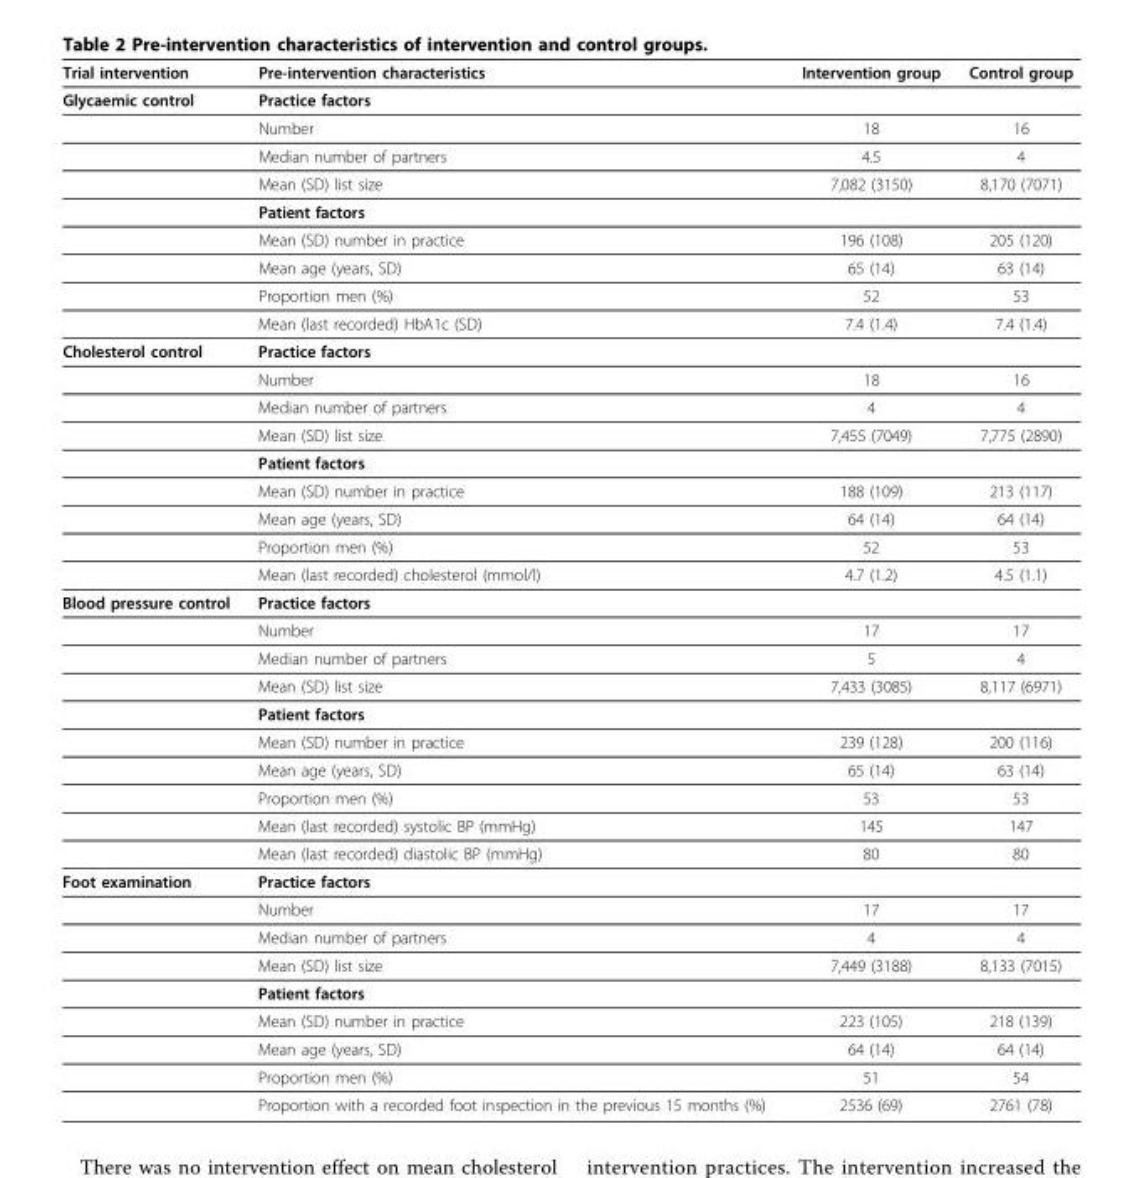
<table><thead><tr><td>Trial intervention</td><td>Pre-intervention characteristics</td><td>Intervention group</td><td>Control group</td></tr></thead><tbody><tr><td rowspan="9">Glycaemic control</td><td>Practice factors</td><td></td><td></td></tr><tr><td>Number</td><td>18</td><td>16</td></tr><tr><td>Median number of partners</td><td>4.5</td><td>4</td></tr><tr><td>Mean (SD) list size</td><td>7,082 (3150)</td><td>8,170 (7071)</td></tr><tr><td>Patient factors</td><td></td><td></td></tr><tr><td>Mean (SD) number in practice</td><td>196 (108)</td><td>205 (120)</td></tr><tr><td>Mean age (years, SD)</td><td>65 (14)</td><td>63 (14)</td></tr><tr><td>Proportion men (%)</td><td>52</td><td>53</td></tr><tr><td>Mean (last recorded) HbA1c (SD)</td><td>7.4 (1.4)</td><td>7.4 (1.4)</td></tr><tr><td rowspan="9">Cholesterol control</td><td>Practice factors</td><td></td><td></td></tr><tr><td>Number</td><td>18</td><td>16</td></tr><tr><td>Median number of partners</td><td>4</td><td>4</td></tr><tr><td>Mean (SD) list size</td><td>7,455 (7049)</td><td>7,775 (2890)</td></tr><tr><td>Patient factors</td><td></td><td></td></tr><tr><td>Mean (SD) number in practice</td><td>188 (109)</td><td>213 (117)</td></tr><tr><td>Mean age (years, SD)</td><td>64 (14)</td><td>64 (14)</td></tr><tr><td>Proportion men (%)</td><td>52</td><td>53</td></tr><tr><td>Mean (last recorded) cholesterol (mmol/l)</td><td>4.7 (1.2)</td><td>4.5 (1.1)</td></tr><tr><td rowspan="10">Blood pressure control</td><td>Practice factors</td><td></td><td></td></tr><tr><td>Number</td><td>17</td><td>17</td></tr><tr><td>Median number of partners</td><td>5</td><td>4</td></tr><tr><td>Mean (SD) list size</td><td>7,433 (3085)</td><td>8,117 (6971)</td></tr><tr><td>Patient factors</td><td></td><td></td></tr><tr><td>Mean (SD) number in practice</td><td>239 (128)</td><td>200 (116)</td></tr><tr><td>Mean age (years, SD)</td><td>65 (14)</td><td>63 (14)</td></tr><tr><td>Proportion men (%)</td><td>53</td><td>53</td></tr><tr><td>Mean (last recorded) systolic BP (mmHg)</td><td>145</td><td>147</td></tr><tr><td>Mean (last recorded) diastolic BP (mmHg)</td><td>80</td><td>80</td></tr><tr><td rowspan="9">Foot examination</td><td>Practice factors</td><td></td><td></td></tr><tr><td>Number</td><td>17</td><td>17</td></tr><tr><td>Median number of partners</td><td>4</td><td>4</td></tr><tr><td>Mean (SD) list size</td><td>7,449 (3188)</td><td>8,133 (7015)</td></tr><tr><td>Patient factors</td><td></td><td></td></tr><tr><td>Mean (SD) number in practice</td><td>223 (105)</td><td>218 (139)</td></tr><tr><td>Mean age (years, SD)</td><td>64 (14)</td><td>64 (14)</td></tr><tr><td>Proportion men (%)</td><td>51</td><td>54</td></tr><tr><td>Proportion with a recorded foot inspection in the previous 15 months (%)</td><td>2536 (69)</td><td>2761 (78)</td></tr></tbody></table>